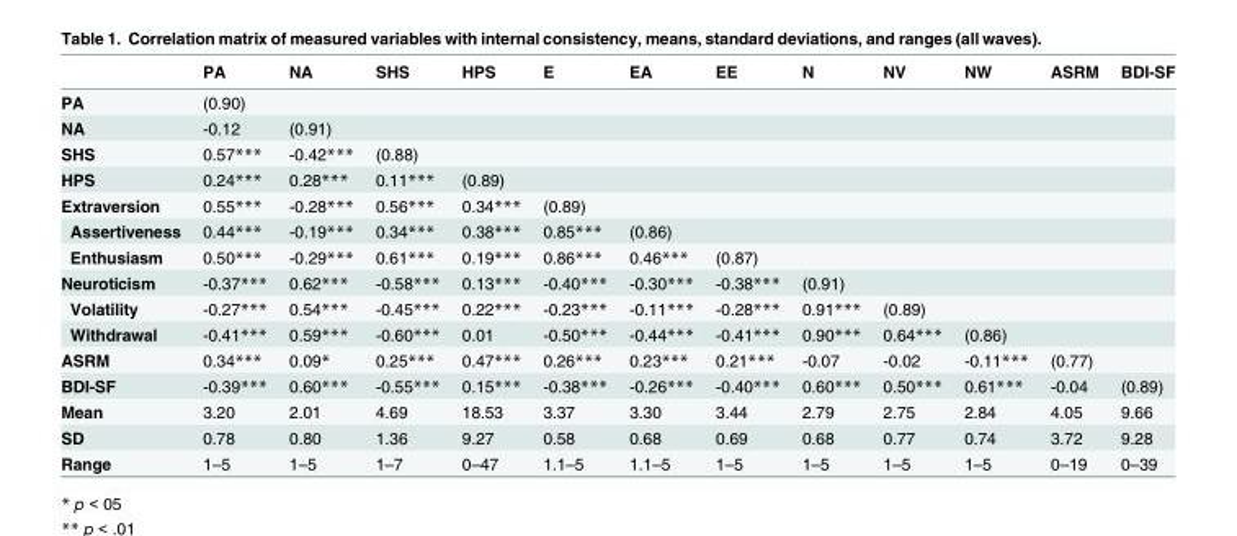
<table><thead><tr><td></td><td>PA</td><td>NA</td><td>SHS</td><td>HPS</td><td>E</td><td>EA</td><td>EE</td><td>N</td><td>NV</td><td>NW</td><td>ASRM</td><td>BDI-SF</td></tr></thead><tbody><tr><td>PA</td><td>(0.90)</td><td></td><td></td><td></td><td></td><td></td><td></td><td></td><td></td><td></td><td></td><td></td></tr><tr><td>NA</td><td>-0.12</td><td>(0.91)</td><td></td><td></td><td></td><td></td><td></td><td></td><td></td><td></td><td></td><td></td></tr><tr><td>SHS</td><td>0.57***</td><td>-0.42***</td><td>(0.88)</td><td></td><td></td><td></td><td></td><td></td><td></td><td></td><td></td><td></td></tr><tr><td>HPS</td><td>0.24***</td><td>0.28***</td><td>0.11***</td><td>(0.89)</td><td></td><td></td><td></td><td></td><td></td><td></td><td></td><td></td></tr><tr><td>Extraversion</td><td>0.55***</td><td>-0.28***</td><td>0.56***</td><td>0.34***</td><td>(0.89)</td><td></td><td></td><td></td><td></td><td></td><td></td><td></td></tr><tr><td>Assertiveness</td><td>0.44***</td><td>-0.19***</td><td>0.34***</td><td>0.38***</td><td>0.85***</td><td>(0.86)</td><td></td><td></td><td></td><td></td><td></td><td></td></tr><tr><td>Enthusiasm</td><td>0.50***</td><td>-0.29***</td><td>0.61***</td><td>0.19***</td><td>0.86***</td><td>0.46***</td><td>(0.87)</td><td></td><td></td><td></td><td></td><td></td></tr><tr><td>Neuroticism</td><td>-0.37***</td><td>0.62***</td><td>-0.58***</td><td>0.13***</td><td>-0.40***</td><td>-0.30***</td><td>-0.38***</td><td>(0.91)</td><td></td><td></td><td></td><td></td></tr><tr><td>Volatility</td><td>-0.27***</td><td>0.54***</td><td>-0.45***</td><td>0.22***</td><td>-0.23***</td><td>-0.11***</td><td>-0.28***</td><td>0.91***</td><td>(0.89)</td><td></td><td></td><td></td></tr><tr><td>Withdrawal</td><td>-0.41***</td><td>0.59***</td><td>-0.60***</td><td>0.01</td><td>-0.50***</td><td>-0.44***</td><td>-0.41***</td><td>0.90***</td><td>0.64***</td><td>(0.86)</td><td></td><td></td></tr><tr><td>ASRM</td><td>0.34***</td><td>0.09*</td><td>0.25***</td><td>0.47***</td><td>0.26***</td><td>0.23***</td><td>0.21***</td><td>-0.07</td><td>-0.02</td><td>-0.11***</td><td>(0.77)</td><td></td></tr><tr><td>BDI-SF</td><td>-0.39***</td><td>0.60***</td><td>-0.55***</td><td>0.15***</td><td>-0.38***</td><td>-0.26***</td><td>-0.40***</td><td>0.60***</td><td>0.50***</td><td>0.61***</td><td>-0.04</td><td>(0.89)</td></tr><tr><td>Mean</td><td>3.20</td><td>2.01</td><td>4.69</td><td>18.53</td><td>3.37</td><td>3.30</td><td>3.44</td><td>2.79</td><td>2.75</td><td>2.84</td><td>4.05</td><td>9.66</td></tr><tr><td>SD</td><td>0.78</td><td>0.80</td><td>1.36</td><td>9.27</td><td>0.58</td><td>0.68</td><td>0.69</td><td>0.68</td><td>0.77</td><td>0.74</td><td>3.72</td><td>9.28</td></tr><tr><td>Range</td><td>1–5</td><td>1–5</td><td>1–7</td><td>0–47</td><td>1.1–5</td><td>1.1–5</td><td>1–5</td><td>1–5</td><td>1–5</td><td>1–5</td><td>0–19</td><td>0–39</td></tr></tbody></table>